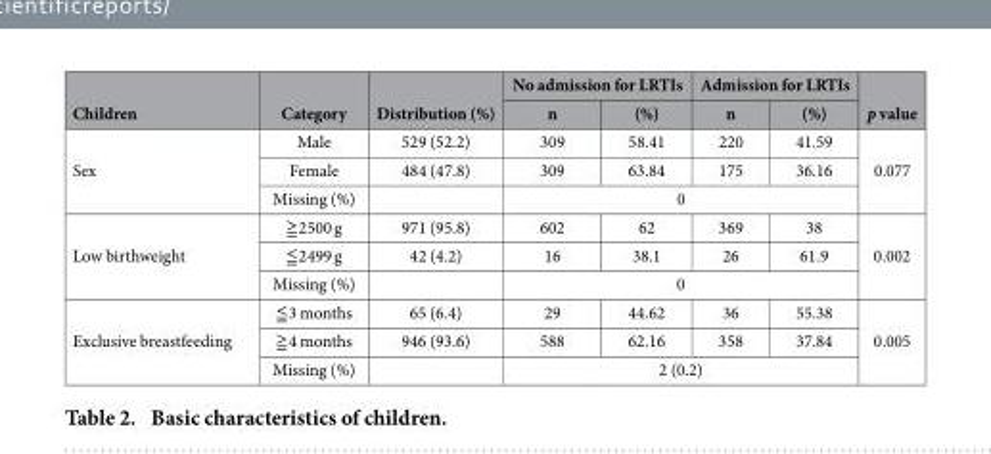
<table><thead><tr><td rowspan="2">Children</td><td rowspan="2">Category</td><td rowspan="2">Distribution (%)</td><td colspan="2">No admission for LRTIs</td><td colspan="2">Admission for LRTIs</td><td rowspan="2">p value</td></tr><tr><td>n</td><td>(%)</td><td>n</td><td>(%)</td></tr></thead><tbody><tr><td rowspan="3">Sex</td><td>Male</td><td>529 (52.2)</td><td>309</td><td>58.41</td><td>220</td><td>41.59</td><td rowspan="3">0.077</td></tr><tr><td>Female</td><td>484 (47.8)</td><td>309</td><td>63.84</td><td>175</td><td>36.16</td></tr><tr><td>Missing (%)</td><td colspan="5">0</td></tr><tr><td rowspan="3">Low birthweight</td><td>≧ 2500 g</td><td>971 (95.8)</td><td>602</td><td>62</td><td>369</td><td>38</td><td rowspan="3">0.002</td></tr><tr><td>≦ 2499 g</td><td>42 (4.2)</td><td>16</td><td>38.1</td><td>26</td><td>61.9</td></tr><tr><td>Missing (%)</td><td colspan="5">0</td></tr><tr><td rowspan="3">Exclusive breastfeeding</td><td>≦ 3 months</td><td>65 (6.4)</td><td>29</td><td>44.62</td><td>36</td><td>55.38</td><td rowspan="3">0.005</td></tr><tr><td>≧ 4 months</td><td>946 (93.6)</td><td>588</td><td>62.16</td><td>358</td><td>37.84</td></tr><tr><td>Missing (%)</td><td></td><td colspan="4">2 (0.2)</td></tr></tbody></table>